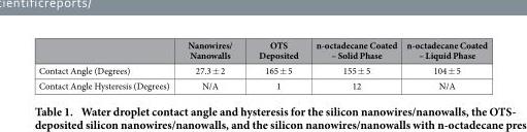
<table><thead><tr><td></td><td>Nanowires/ Nanowalls</td><td>OTS Deposited</td><td>n-octadecane Coated – Solid Phase</td><td>n-octadecane Coated – Liquid Phase</td></tr></thead><tbody><tr><td>Contact Angle (Degrees)</td><td>27.3 ± 2</td><td>165 ± 5</td><td>155 ± 5</td><td>104 ± 5</td></tr><tr><td>Contact Angle Hysteresis (Degrees)</td><td>N/A</td><td>1</td><td>12</td><td>N/A</td></tr></tbody></table>